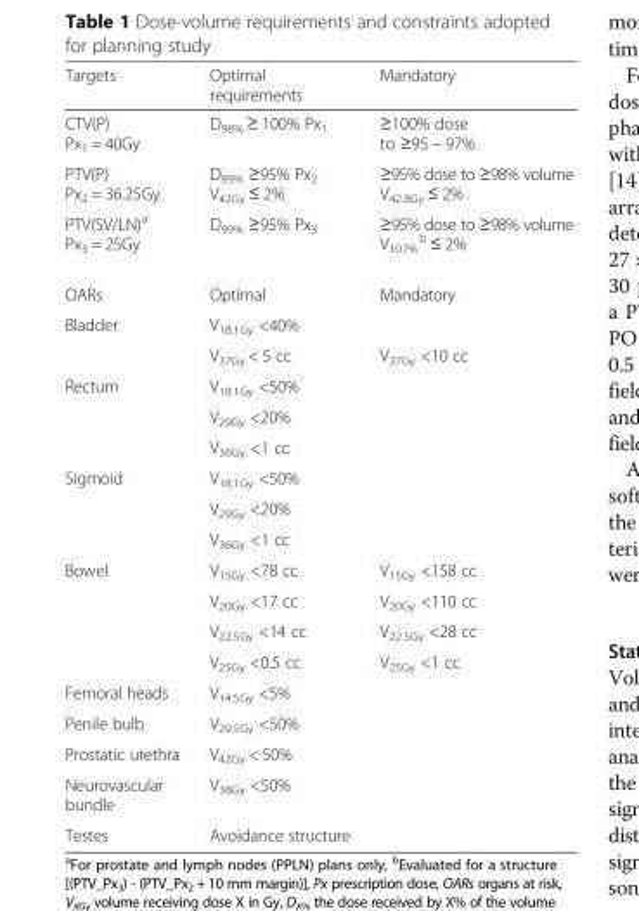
<table><thead><tr><td>Targets</td><td>Optimal requirements</td><td>Mandatory</td></tr></thead><tbody><tr><td>CTV(P) Px<sub>1</sub> = 40Gy</td><td>D<sub>98%</sub> ≥ 100% Px<sub>1</sub></td><td>≥100% dose to ≥95 − 97%</td></tr><tr><td>PTV(P) Px<sub>2</sub> = 36.25Gy</td><td>D<sub>99%</sub> ≥95% Px<sub>2</sub> V<sub>42Gy</sub> ≤ 2%</td><td>≥95% dose to ≥98% volume V<sub>42.8Gy</sub> ≤ 2%</td></tr><tr><td>PTV(SV/LN)<sup>a</sup> Px<sub>3</sub> = 25Gy</td><td>D<sub>99%</sub> ≥95% Px<sub>3</sub></td><td>≥95% dose to ≥98% volume V<sub>107%</sub> <sup>b</sup> ≤ 2%</td></tr><tr><td>OARs</td><td>Optimal</td><td>Mandatory</td></tr><tr><td rowspan="2">Bladder</td><td>V<sub>18.1Gy</sub> &lt;40%</td><td></td></tr><tr><td>V<sub>37Gy</sub> &lt; 5 cc</td><td>V<sub>37Gy</sub> &lt;10 cc</td></tr><tr><td rowspan="3">Rectum</td><td>V<sub>18.1Gy</sub> &lt;50%</td><td></td></tr><tr><td>V<sub>29Gy</sub> &lt;20%</td><td></td></tr><tr><td>V<sub>36Gy</sub> &lt;1 cc</td><td></td></tr><tr><td rowspan="3">Sigmoid</td><td>V<sub>18.1Gy</sub> &lt;50%</td><td></td></tr><tr><td>V<sub>29Gy</sub> &lt;20%</td><td></td></tr><tr><td>V<sub>36Gy</sub> &lt;1 cc</td><td></td></tr><tr><td rowspan="4">Bowel</td><td>V<sub>15Gy</sub> &lt;78 cc</td><td>V<sub>15Gy</sub> &lt;158 cc</td></tr><tr><td>V<sub>20Gy</sub> &lt;17 cc</td><td>V<sub>20Gy</sub> &lt;110 cc</td></tr><tr><td>V<sub>22.5Gy</sub> &lt;14 cc</td><td>V<sub>22.5Gy</sub> &lt;28 cc</td></tr><tr><td>V<sub>25Gy</sub> &lt;0.5 cc</td><td>V<sub>25Gy</sub> &lt;1 cc</td></tr><tr><td>Femoral heads</td><td>V<sub>14.5Gy</sub> &lt;5%</td><td></td></tr><tr><td>Penile bulb</td><td>V<sub>29.5Gy</sub> &lt;50%</td><td></td></tr><tr><td>Prostatic urethra</td><td>V<sub>42Gy</sub> &lt; 50%</td><td></td></tr><tr><td>Neurovascular bundle</td><td>V<sub>38Gy</sub> &lt;50%</td><td></td></tr><tr><td>Testes</td><td>Avoidance structure</td><td></td></tr></tbody></table>